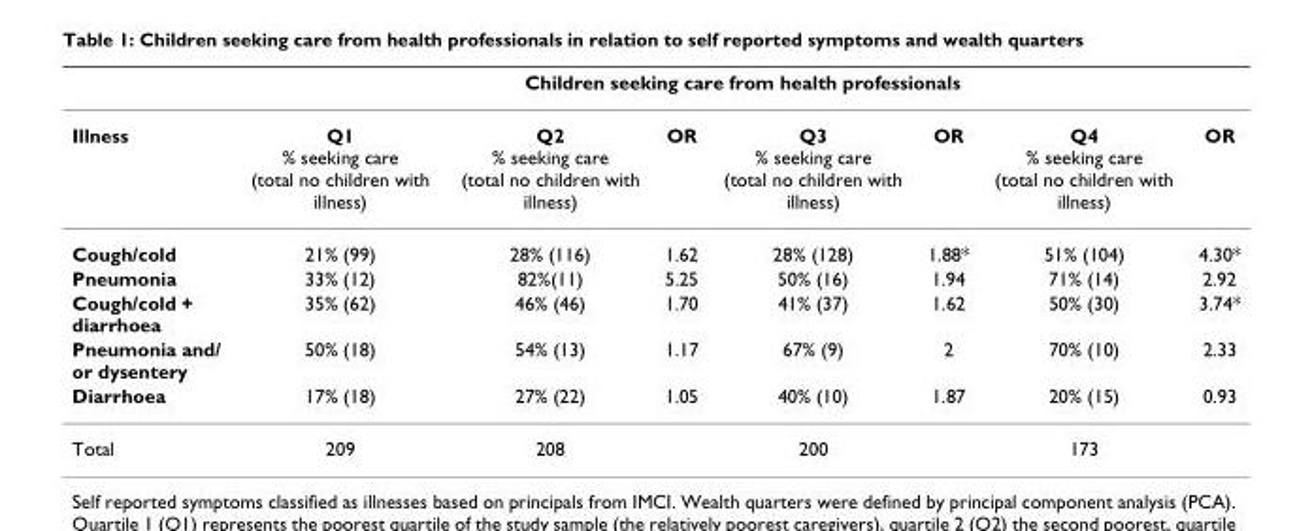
<table><thead><tr><td rowspan="2">Illness</td><td colspan="7">Children seeking care from health professionals</td></tr><tr><td>Q1 % seeking care (total no children with illness)</td><td>Q2 % seeking care (total no children with illness)</td><td>OR</td><td>Q3 % seeking care (total no children with illness)</td><td>OR</td><td>Q4 % seeking care (total no children with illness)</td><td>OR</td></tr></thead><tbody><tr><td>Cough/cold</td><td>21% (99)</td><td>28% (116)</td><td>1.62</td><td>28% (128)</td><td>1.88*</td><td>51% (104)</td><td>4.30*</td></tr><tr><td>Pneumonia</td><td>33% (12)</td><td>82%(11)</td><td>5.25</td><td>50% (16)</td><td>1.94</td><td>71% (14)</td><td>2.92</td></tr><tr><td>Cough/cold + diarrhoea</td><td>35% (62)</td><td>46% (46)</td><td>1.70</td><td>41% (37)</td><td>1.62</td><td>50% (30)</td><td>3.74*</td></tr><tr><td>Pneumonia and/ or dysentery</td><td>50% (18)</td><td>54% (13)</td><td>1.17</td><td>67% (9)</td><td>2</td><td>70% (10)</td><td>2.33</td></tr><tr><td>Diarrhoea</td><td>17% (18)</td><td>27% (22)</td><td>1.05</td><td>40% (10)</td><td>1.87</td><td>20% (15)</td><td>0.93</td></tr><tr><td>Total</td><td>209</td><td>208</td><td></td><td>200</td><td></td><td>173</td><td></td></tr></tbody></table>